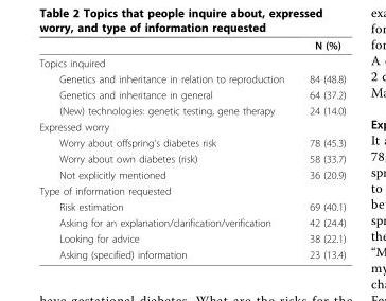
<table><thead><tr><td></td><td>N (%)</td></tr></thead><tbody><tr><td colspan="2">Topics inquired</td></tr><tr><td>Genetics and inheritance in relation to reproduction</td><td>84 (48.8)</td></tr><tr><td>Genetics and inheritance in general</td><td>64 (37.2)</td></tr><tr><td>(New) technologies: genetic testing, gene therapy</td><td>24 (14.0)</td></tr><tr><td colspan="2">Expressed worry</td></tr><tr><td>Worry about offspring’s diabetes risk</td><td>78 (45.3)</td></tr><tr><td>Worry about own diabetes (risk)</td><td>58 (33.7)</td></tr><tr><td>Not explicitly mentioned</td><td>36 (20.9)</td></tr><tr><td colspan="2">Type of information requested</td></tr><tr><td>Risk estimation</td><td>69 (40.1)</td></tr><tr><td>Asking for an explanation/clarification/verification</td><td>42 (24.4)</td></tr><tr><td>Looking for advice</td><td>38 (22.1)</td></tr><tr><td>Asking (specified) information</td><td>23 (13.4)</td></tr></tbody></table>